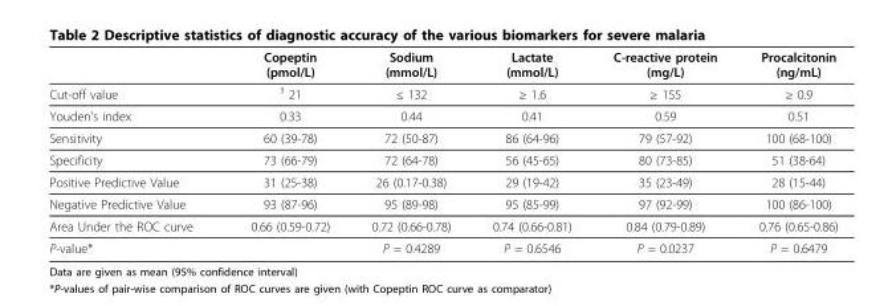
<table><thead><tr><td></td><td>Copeptin (pmol/L)</td><td>Sodium (mmol/L)</td><td>Lactate (mmol/L)</td><td>C-reactive protein (mg/L)</td><td>Procalcitonin (ng/mL)</td></tr></thead><tbody><tr><td>Cut-off value</td><td><sup>3</sup> 21</td><td>≤ 132</td><td>≥ 1.6</td><td>≥ 155</td><td>≥ 0.9</td></tr><tr><td>Youden’s index</td><td>0.33</td><td>0.44</td><td>0.41</td><td>0.59</td><td>0.51</td></tr><tr><td>Sensitivity</td><td>60 (39-78)</td><td>72 (50-87)</td><td>86 (64-96)</td><td>79 (57-92)</td><td>100 (68-100)</td></tr><tr><td>Specificity</td><td>73 (66-79)</td><td>72 (64-78)</td><td>56 (45-65)</td><td>80 (73-85)</td><td>51 (38-64)</td></tr><tr><td>Positive Predictive Value</td><td>31 (25-38)</td><td>26 (0.17-0.38)</td><td>29 (19-42)</td><td>35 (23-49)</td><td>28 (15-44)</td></tr><tr><td>Negative Predictive Value</td><td>93 (87-96)</td><td>95 (89-98)</td><td>95 (85-99)</td><td>97 (92-99)</td><td>100 (86-100)</td></tr><tr><td>Area Under the ROC curve</td><td>0.66 (0.59-0.72)</td><td>0.72 (0.66-0.78)</td><td>0.74 (0.66-0.81)</td><td>0.84 (0.79-0.89)</td><td>0.76 (0.65-0.86)</td></tr><tr><td>P-value*</td><td></td><td>P = 0.4289</td><td>P = 0.6546</td><td>P = 0.0237</td><td>P = 0.6479</td></tr></tbody></table>